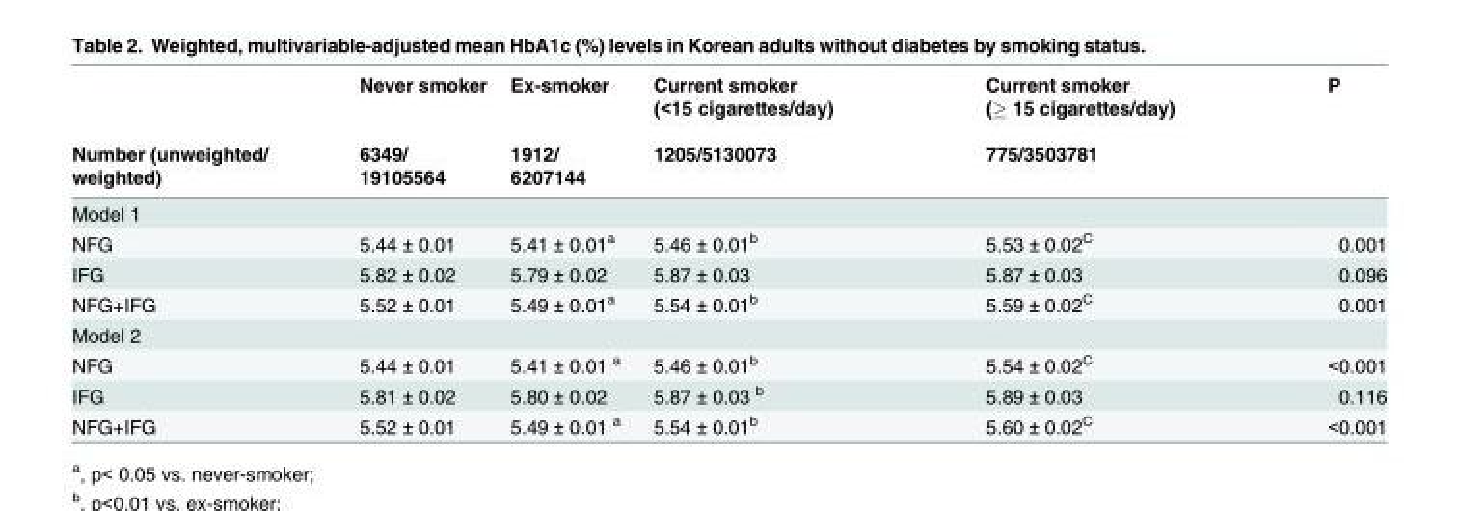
<table><thead><tr><td rowspan="2">Number (unweighted/ weighted)</td><td rowspan="2">Never smoker 6349/ 19105564</td><td rowspan="2">Ex-smoker 1912/ 6207144</td><td rowspan="2">Current smoker (&lt;15 cigarettes/day) 1205/5130073</td><td rowspan="2">Current smoker (≥ 15 cigarettes/day) 775/3503781</td><td rowspan="2">P</td></tr><tr></tr></thead><tbody><tr><td colspan="6">Model 1</td></tr><tr><td>NFG</td><td>5.44 ± 0.01</td><td>5.41 ± 0.01<sup>a</sup></td><td>5.46 ± 0.01<sup>b</sup></td><td>5.53 ± 0.02<sup>C</sup></td><td>0.001</td></tr><tr><td>IFG</td><td>5.82 ± 0.02</td><td>5.79 ± 0.02</td><td>5.87 ± 0.03</td><td>5.87 ± 0.03</td><td>0.096</td></tr><tr><td>NFG+IFG</td><td>5.52 ± 0.01</td><td>5.49 ± 0.01<sup>a</sup></td><td>5.54 ± 0.01<sup>b</sup></td><td>5.59 ± 0.02<sup>C</sup></td><td>0.001</td></tr><tr><td colspan="6">Model 2</td></tr><tr><td>NFG</td><td>5.44 ± 0.01</td><td>5.41 ± 0.01 <sup>a</sup></td><td>5.46 ± 0.01<sup>b</sup></td><td>5.54 ± 0.02<sup>C</sup></td><td>&lt;0.001</td></tr><tr><td>IFG</td><td>5.81 ± 0.02</td><td>5.80 ± 0.02</td><td>5.87 ± 0.03 <sup>b</sup></td><td>5.89 ± 0.03</td><td>0.116</td></tr><tr><td>NFG+IFG</td><td>5.52 ± 0.01</td><td>5.49 ± 0.01 <sup>a</sup></td><td>5.54 ± 0.01<sup>b</sup></td><td>5.60 ± 0.02<sup>C</sup></td><td>&lt;0.001</td></tr></tbody></table>